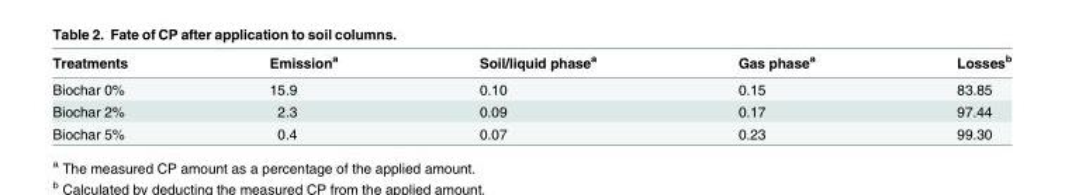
<table><thead><tr><td>Treatments</td><td>Emission<sup>a</sup></td><td>Soil/liquid phase<sup>a</sup></td><td>Gas phase<sup>a</sup></td><td>Losses<sup>b</sup></td></tr></thead><tbody><tr><td>Biochar 0%</td><td>15.9</td><td>0.10</td><td>0.15</td><td>83.85</td></tr><tr><td>Biochar 2%</td><td>2.3</td><td>0.09</td><td>0.17</td><td>97.44</td></tr><tr><td>Biochar 5%</td><td>0.4</td><td>0.07</td><td>0.23</td><td>99.30</td></tr></tbody></table>